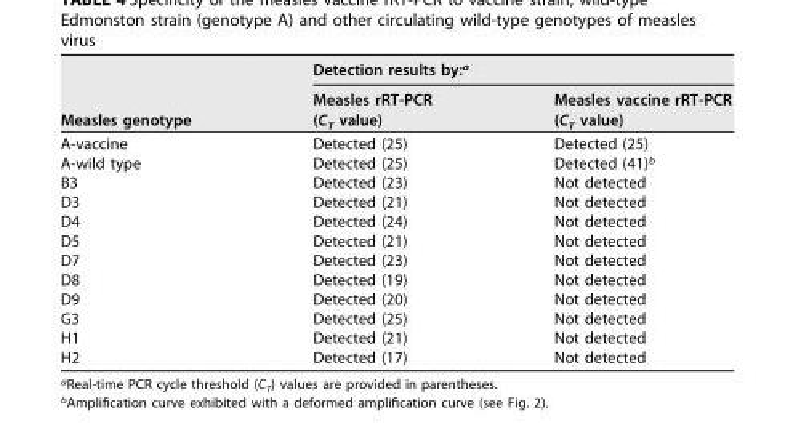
<table><thead><tr><td rowspan="2">Measles genotype</td><td colspan="2">Detection results by:<sup>a</sup></td></tr><tr><td>Measles rRT-PCR (C<sub>T</sub> value)</td><td>Measles vaccine rRT-PCR (C<sub>T</sub> value)</td></tr></thead><tbody><tr><td>A-vaccine</td><td>Detected (25)</td><td>Detected (25)</td></tr><tr><td>A-wild type</td><td>Detected (25)</td><td>Detected (41)<sup>b</sup></td></tr><tr><td>B3</td><td>Detected (23)</td><td>Not detected</td></tr><tr><td>D3</td><td>Detected (21)</td><td>Not detected</td></tr><tr><td>D4</td><td>Detected (24)</td><td>Not detected</td></tr><tr><td>D5</td><td>Detected (21)</td><td>Not detected</td></tr><tr><td>D7</td><td>Detected (23)</td><td>Not detected</td></tr><tr><td>D8</td><td>Detected (19)</td><td>Not detected</td></tr><tr><td>D9</td><td>Detected (20)</td><td>Not detected</td></tr><tr><td>G3</td><td>Detected (25)</td><td>Not detected</td></tr><tr><td>H1</td><td>Detected (21)</td><td>Not detected</td></tr><tr><td>H2</td><td>Detected (17)</td><td>Not detected</td></tr></tbody></table>